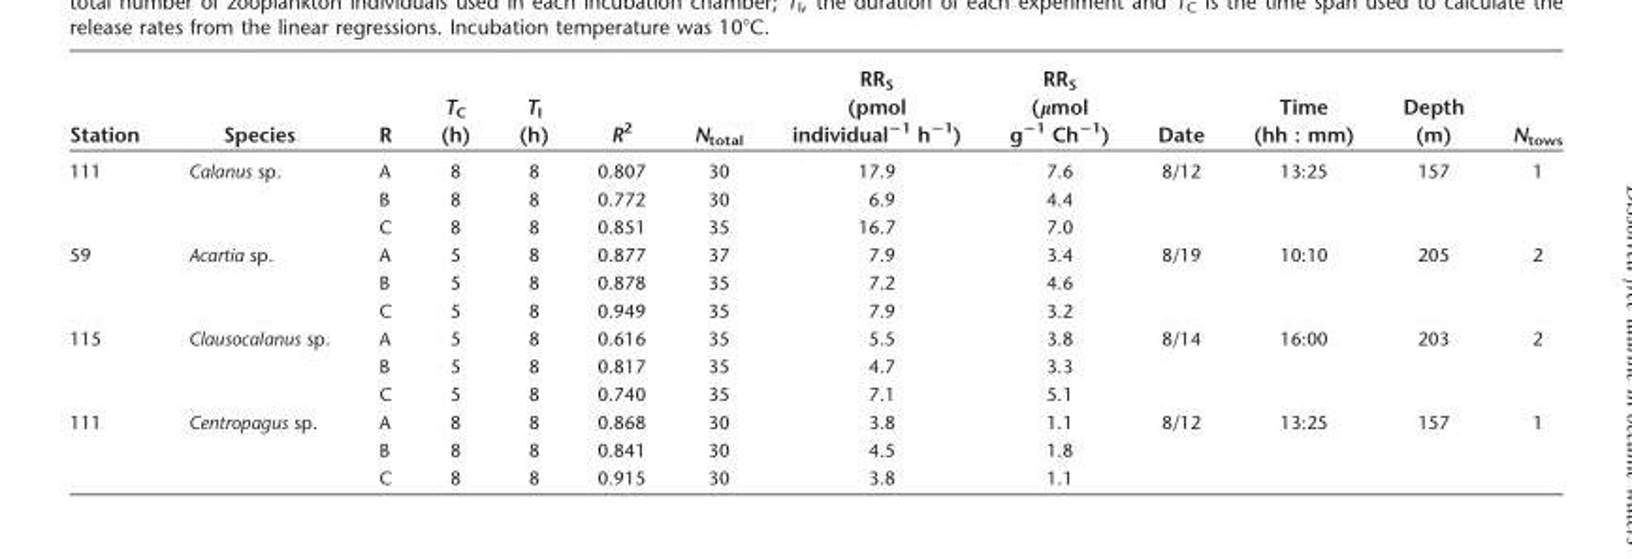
<table><thead><tr><td>Station</td><td>Species</td><td>R</td><td>T<sub>C</sub> (h)</td><td>T<sub>I</sub> (h)</td><td>R<sup>2</sup></td><td>N<sub>total</sub></td><td>RR<sub>S</sub> (pmol individual<sup>−1</sup> h<sup>−1</sup>)</td><td>RR<sub>S</sub> (μmol g<sup>−1</sup> Ch<sup>−1</sup>)</td><td>Date</td><td>Time (hh : mm)</td><td>Depth (m)</td><td>N<sub>tows</sub></td></tr></thead><tbody><tr><td rowspan="3">111</td><td>Calanus sp.</td><td>A</td><td>8</td><td>8</td><td>0.807</td><td>30</td><td>17.9</td><td>7.6</td><td>8/12</td><td>13:25</td><td>157</td><td>1</td></tr><tr><td></td><td>B</td><td>8</td><td>8</td><td>0.772</td><td>30</td><td>6.9</td><td>4.4</td><td></td><td></td><td></td><td></td></tr><tr><td></td><td>C</td><td>8</td><td>8</td><td>0.851</td><td>35</td><td>16.7</td><td>7.0</td><td></td><td></td><td></td><td></td></tr><tr><td rowspan="3">59</td><td>Acartia sp.</td><td>A</td><td>5</td><td>8</td><td>0.877</td><td>37</td><td>7.9</td><td>3.4</td><td>8/19</td><td>10:10</td><td>205</td><td>2</td></tr><tr><td></td><td>B</td><td>5</td><td>8</td><td>0.878</td><td>35</td><td>7.2</td><td>4.6</td><td></td><td></td><td></td><td></td></tr><tr><td></td><td>C</td><td>5</td><td>8</td><td>0.949</td><td>35</td><td>7.9</td><td>3.2</td><td></td><td></td><td></td><td></td></tr><tr><td rowspan="3">115</td><td>Clausocalanus sp.</td><td>A</td><td>5</td><td>8</td><td>0.616</td><td>35</td><td>5.5</td><td>3.8</td><td>8/14</td><td>16:00</td><td>203</td><td>2</td></tr><tr><td></td><td>B</td><td>5</td><td>8</td><td>0.817</td><td>35</td><td>4.7</td><td>3.3</td><td></td><td></td><td></td><td></td></tr><tr><td></td><td>C</td><td>5</td><td>8</td><td>0.740</td><td>35</td><td>7.1</td><td>5.1</td><td></td><td></td><td></td><td></td></tr><tr><td rowspan="3">111</td><td>Centropagus sp.</td><td>A</td><td>8</td><td>8</td><td>0.868</td><td>30</td><td>3.8</td><td>1.1</td><td>8/12</td><td>13:25</td><td>157</td><td>1</td></tr><tr><td></td><td>B</td><td>8</td><td>8</td><td>0.841</td><td>30</td><td>4.5</td><td>1.8</td><td></td><td></td><td></td><td></td></tr><tr><td></td><td>C</td><td>8</td><td>8</td><td>0.915</td><td>30</td><td>3.8</td><td>1.1</td><td></td><td></td><td></td><td></td></tr></tbody></table>